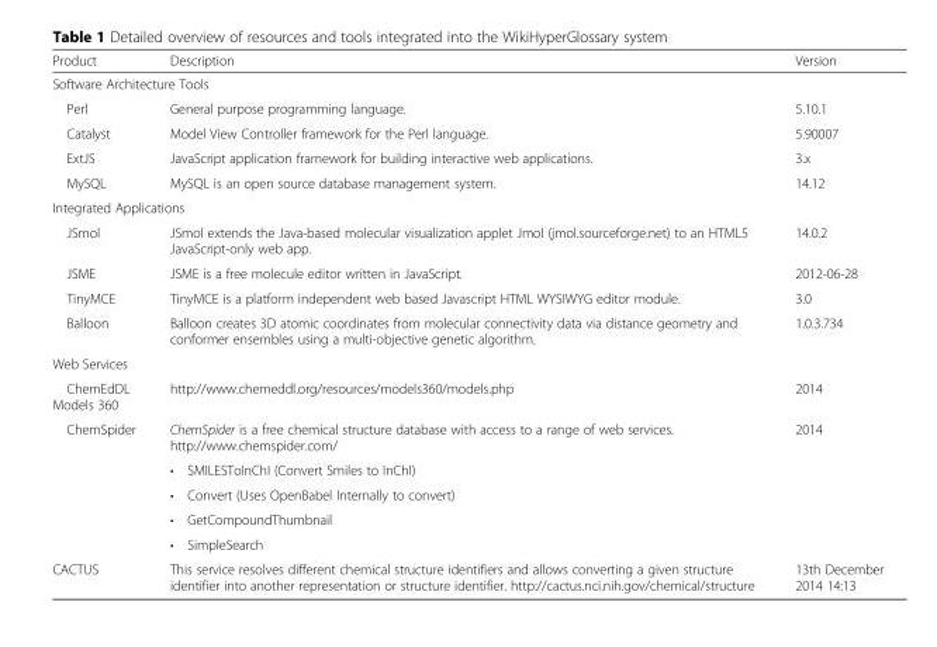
<table><thead><tr><td>Product</td><td>Description</td><td>Version</td></tr></thead><tbody><tr><td colspan="3">Software Architecture Tools</td></tr><tr><td>Perl</td><td>General purpose programming language.</td><td>5.10.1</td></tr><tr><td>Catalyst</td><td>Model View Controller framework for the Perl language.</td><td>5.90007</td></tr><tr><td>ExtJS</td><td>JavaScript application framework for building interactive web applications.</td><td>3.x</td></tr><tr><td>MySQL</td><td>MySQL is an open source database management system.</td><td>14.12</td></tr><tr><td colspan="3">Integrated Applications</td></tr><tr><td>JSmol</td><td>JSmol extends the Java-based molecular visualization applet Jmol (jmol.sourceforge.net) to an HTML5 JavaScript-only web app.</td><td>14.0.2</td></tr><tr><td>JSME</td><td>JSME is a free molecule editor written in JavaScript.</td><td>2012-06-28</td></tr><tr><td>TinyMCE</td><td>TinyMCE is a platform independent web based Javascript HTML WYSIWYG editor module.</td><td>3.0</td></tr><tr><td>Balloon</td><td>Balloon creates 3D atomic coordinates from molecular connectivity data via distance geometry and conformer ensembles using a multi-objective genetic algorithm.</td><td>1.0.3.734</td></tr><tr><td colspan="3">Web Services</td></tr><tr><td>ChemEdDL Models 360</td><td>http://www.chemeddl.org/resources/models360/models.php</td><td>2014</td></tr><tr><td rowspan="5">ChemSpider</td><td>ChemSpider is a free chemical structure database with access to a range of web services. http://www.chemspider.com/</td><td rowspan="5">2014</td></tr><tr><td>• SMILESToInChI (Convert Smiles to InChI)</td></tr><tr><td>• Convert (Uses OpenBabel Internally to convert)</td></tr><tr><td>• GetCompoundThumbnail</td></tr><tr><td>• SimpleSearch</td></tr><tr><td>CACTUS</td><td>This service resolves different chemical structure identifiers and allows converting a given structure identifier into another representation or structure identifier. http://cactus.nci.nih.gov/chemical/structure</td><td>13th December 2014 14:13</td></tr></tbody></table>